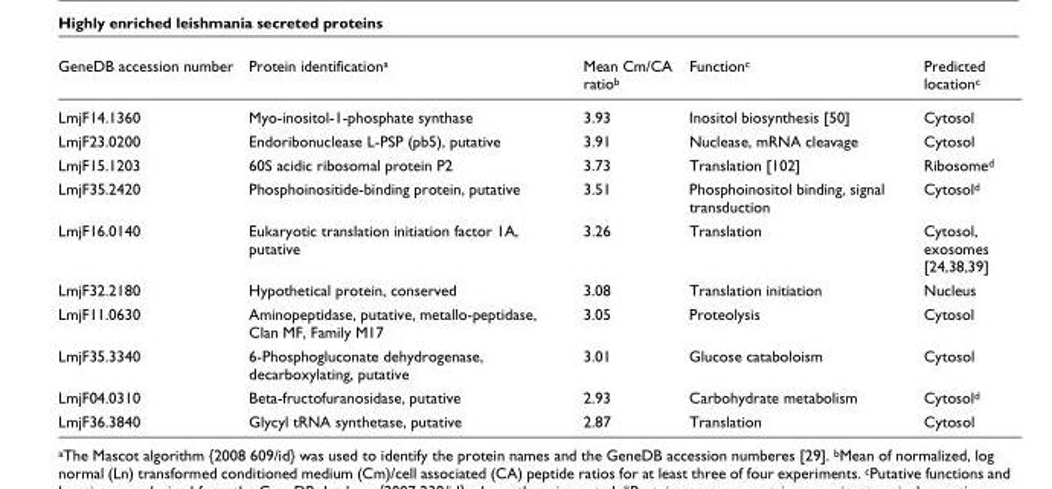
<table><thead><tr><td>GeneDB accession number</td><td>Protein identification<sup>a</sup></td><td>Mean Cm/CA ratio<sup>b</sup></td><td>Function<sup>c</sup></td><td>Predicted location<sup>c</sup></td></tr></thead><tbody><tr><td>LmjF14.1360</td><td>Myo-inositol-1-phosphate synthase</td><td>3.93</td><td>Inositol biosynthesis [50]</td><td>Cytosol</td></tr><tr><td>LmjF23.0200</td><td>Endoribonuclease L-PSP (pb5), putative</td><td>3.91</td><td>Nuclease, mRNA cleavage</td><td>Cytosol</td></tr><tr><td>LmjF15.1203</td><td>60S acidic ribosomal protein P2</td><td>3.73</td><td>Translation [102]</td><td>Ribosome<sup>d</sup></td></tr><tr><td>LmjF35.2420</td><td>Phosphoinositide-binding protein, putative</td><td>3.51</td><td>Phosphoinositol binding, signal transduction</td><td>Cytosol<sup>d</sup></td></tr><tr><td>LmjF16.0140</td><td>Eukaryotic translation initiation factor 1A, putative</td><td>3.26</td><td>Translation</td><td>Cytosol, exosomes [24,38,39]</td></tr><tr><td>LmjF32.2180</td><td>Hypothetical protein, conserved</td><td>3.08</td><td>Translation initiation</td><td>Nucleus</td></tr><tr><td>LmjF11.0630</td><td>Aminopeptidase, putative, metallo-peptidase, Clan MF, Family M17</td><td>3.05</td><td>Proteolysis</td><td>Cytosol</td></tr><tr><td>LmjF35.3340</td><td>6-Phosphogluconate dehydrogenase, decarboxylating, putative</td><td>3.01</td><td>Glucose cataboloism</td><td>Cytosol</td></tr><tr><td>LmjF04.0310</td><td>Beta-fructofuranosidase, putative</td><td>2.93</td><td>Carbohydrate metabolism</td><td>Cytosol<sup>d</sup></td></tr><tr><td>LmjF36.3840</td><td>Glycyl tRNA synthetase, putative</td><td>2.87</td><td>Translation</td><td>Cytosol</td></tr></tbody></table>